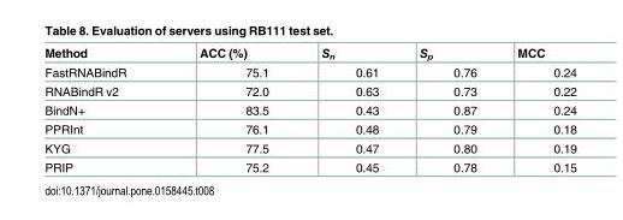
<table><thead><tr><td>Method</td><td>ACC (%)</td><td>S<sub>n</sub></td><td>S<sub>p</sub></td><td>MCC</td></tr></thead><tbody><tr><td>FastRNABindR</td><td>75.1</td><td>0.61</td><td>0.76</td><td>0.24</td></tr><tr><td>RNABindR v2</td><td>72.0</td><td>0.63</td><td>0.73</td><td>0.22</td></tr><tr><td>BindN+</td><td>83.5</td><td>0.43</td><td>0.87</td><td>0.24</td></tr><tr><td>PPRInt</td><td>76.1</td><td>0.48</td><td>0.79</td><td>0.18</td></tr><tr><td>KYG</td><td>77.5</td><td>0.47</td><td>0.80</td><td>0.19</td></tr><tr><td>PRIP</td><td>75.2</td><td>0.45</td><td>0.78</td><td>0.15</td></tr></tbody></table>